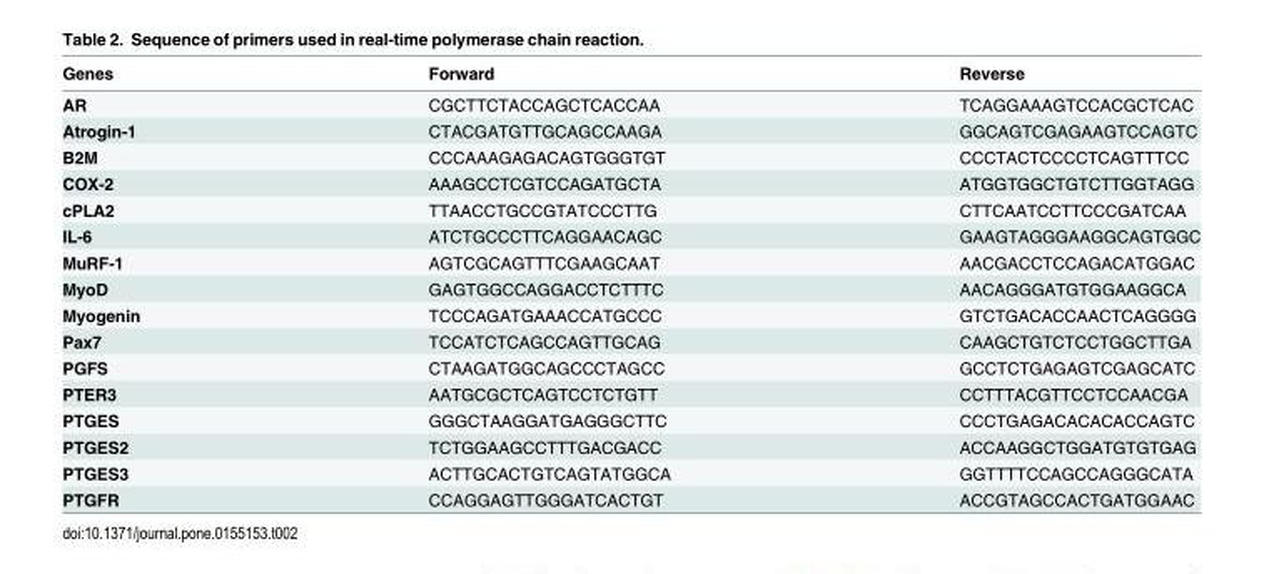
<table><thead><tr><td>Genes</td><td>Forward</td><td>Reverse</td></tr></thead><tbody><tr><td>AR</td><td>CGCTTCTACCAGCTCACCAA</td><td>TCAGGAAAGTCCACGCTCAC</td></tr><tr><td>Atrogin-1</td><td>CTACGATGTTGCAGCCAAGA</td><td>GGCAGTCGAGAAGTCCAGTC</td></tr><tr><td>B2M</td><td>CCCAAAGAGACAGTGGGTGT</td><td>CCCTACTCCCCTCAGTTTCC</td></tr><tr><td>COX-2</td><td>AAAGCCTCGTCCAGATGCTA</td><td>ATGGTGGCTGTCTTGGTAGG</td></tr><tr><td>cPLA2</td><td>TTAACCTGCCGTATCCCTTG</td><td>CTTCAATCCTTCCCGATCAA</td></tr><tr><td>IL-6</td><td>ATCTGCCCTTCAGGAACAGC</td><td>GAAGTAGGGAAGGCAGTGGC</td></tr><tr><td>MuRF-1</td><td>AGTCGCAGTTTCGAAGCAAT</td><td>AACGACCTCCAGACATGGAC</td></tr><tr><td>MyoD</td><td>GAGTGGCCAGGACCTCTTTC</td><td>AACAGGGATGTGGAAGGCA</td></tr><tr><td>Myogenin</td><td>TCCCAGATGAAACCATGCCC</td><td>GTCTGACACCAACTCAGGGG</td></tr><tr><td>Pax7</td><td>TCCATCTCAGCCAGTTGCAG</td><td>CAAGCTGTCTCCTGGCTTGA</td></tr><tr><td>PGFS</td><td>CTAAGATGGCAGCCCTAGCC</td><td>GCCTCTGAGAGTCGAGCATC</td></tr><tr><td>PTER3</td><td>AATGCGCTCAGTCCTCTGTT</td><td>CCTTTACGTTCCTCCAACGA</td></tr><tr><td>PTGES</td><td>GGGCTAAGGATGAGGGCTTC</td><td>CCCTGAGACACACACCAGTC</td></tr><tr><td>PTGES2</td><td>TCTGGAAGCCTTTGACGACC</td><td>ACCAAGGCTGGATGTGTGAG</td></tr><tr><td>PTGES3</td><td>ACTTGCACTGTCAGTATGGCA</td><td>GGTTTTCCAGCCAGGGCATA</td></tr><tr><td>PTGFR</td><td>CCAGGAGTTGGGATCACTGT</td><td>ACCGTAGCCACTGATGGAAC</td></tr></tbody></table>